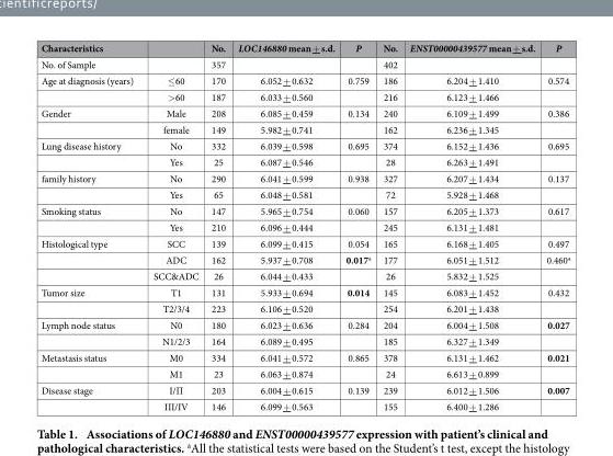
<table><thead><tr><td>Characteristics</td><td></td><td>No.</td><td>LOC146880 mean + s.d.</td><td>P</td><td>No.</td><td>ENST00000439577 mean + s.d.</td><td>P</td></tr></thead><tbody><tr><td>No. of Sample</td><td></td><td>357</td><td></td><td></td><td>402</td><td></td><td></td></tr><tr><td rowspan="2">Age at diagnosis (years)</td><td>≤ 60</td><td>170</td><td>6.052 + 0.632</td><td>0.759</td><td>186</td><td>6.204 + 1.410</td><td>0.574</td></tr><tr><td>&gt; 60</td><td>187</td><td>6.033 + 0.560</td><td></td><td>216</td><td>6.123 + 1.466</td><td></td></tr><tr><td rowspan="2">Gender</td><td>Male</td><td>208</td><td>6.085 + 0.459</td><td>0.134</td><td>240</td><td>6.109 + 1.499</td><td>0.386</td></tr><tr><td>female</td><td>149</td><td>5.982 + 0.741</td><td></td><td>162</td><td>6.236 + 1.345</td><td></td></tr><tr><td rowspan="2">Lung disease history</td><td>No</td><td>332</td><td>6.039 + 0.598</td><td>0.695</td><td>374</td><td>6.152 + 1.436</td><td>0.695</td></tr><tr><td>Yes</td><td>25</td><td>6.087 + 0.546</td><td></td><td>28</td><td>6.263 + 1.491</td><td></td></tr><tr><td rowspan="2">family history</td><td>No</td><td>290</td><td>6.041 + 0.599</td><td>0.938</td><td>327</td><td>6.207 + 1.434</td><td>0.137</td></tr><tr><td>Yes</td><td>65</td><td>6.048 + 0.581</td><td></td><td>72</td><td>5.928 + 1.468</td><td></td></tr><tr><td rowspan="2">Smoking status</td><td>No</td><td>147</td><td>5.965 + 0.754</td><td>0.060</td><td>157</td><td>6.205 + 1.373</td><td>0.617</td></tr><tr><td>Yes</td><td>210</td><td>6.096 + 0.444</td><td></td><td>245</td><td>6.131 + 1.481</td><td></td></tr><tr><td rowspan="3">Histological type</td><td>SCC</td><td>139</td><td>6.099 + 0.415</td><td>0.054</td><td>165</td><td>6.168 + 1.405</td><td>0.497</td></tr><tr><td>ADC</td><td>162</td><td>5.937 + 0.708</td><td>0.017<sup>a</sup></td><td>177</td><td>6.051 + 1.512</td><td>0.460<sup>a</sup></td></tr><tr><td>SCC&amp;ADC</td><td>26</td><td>6.044 + 0.433</td><td></td><td>26</td><td>5.832 + 1.525</td><td></td></tr><tr><td rowspan="2">Tumor size</td><td>T1</td><td>131</td><td>5.933 + 0.694</td><td>0.014</td><td>145</td><td>6.083 + 1.452</td><td>0.432</td></tr><tr><td>T2/3/4</td><td>223</td><td>6.106 + 0.520</td><td></td><td>254</td><td>6.201 + 1.438</td><td></td></tr><tr><td rowspan="2">Lymph node status</td><td>N0</td><td>180</td><td>6.023 + 0.636</td><td>0.284</td><td>204</td><td>6.004 + 1.508</td><td>0.027</td></tr><tr><td>N1/2/3</td><td>164</td><td>6.089 + 0.495</td><td></td><td>185</td><td>6.327 + 1.349</td><td></td></tr><tr><td rowspan="2">Metastasis status</td><td>M0</td><td>334</td><td>6.041 + 0.572</td><td>0.865</td><td>378</td><td>6.131 + 1.462</td><td>0.021</td></tr><tr><td>M1</td><td>23</td><td>6.063 + 0.874</td><td></td><td>24</td><td>6.613 + 0.899</td><td></td></tr><tr><td rowspan="2">Disease stage</td><td>I/Π</td><td>203</td><td>6.004 + 0.615</td><td>0.139</td><td>239</td><td>6.012 + 1.506</td><td>0.007</td></tr><tr><td>III/IV</td><td>146</td><td>6.099 + 0.563</td><td></td><td>155</td><td>6.400 + 1.286</td><td></td></tr></tbody></table>